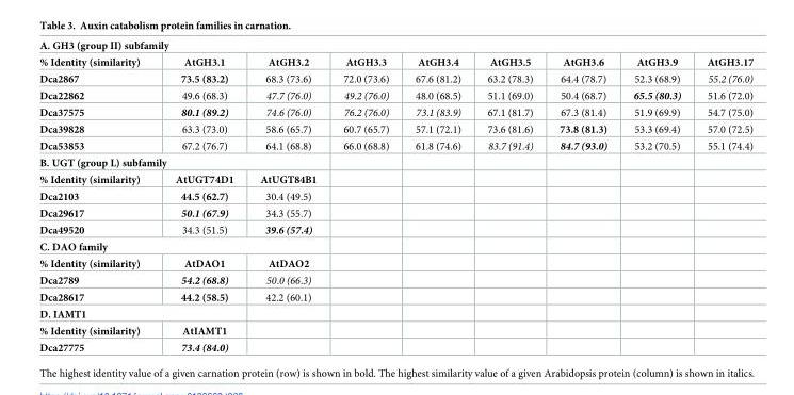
<table><tbody><tr><td colspan="9">A. GH3 (group II) subfamily</td></tr><tr><td>% Identity (similarity)</td><td>AtGH3.1</td><td>AtGH3.2</td><td>AtGH3.3</td><td>AtGH3.4</td><td>AtGH3.5</td><td>AtGH3.6</td><td>AtGH3.9</td><td>AtGH3.17</td></tr><tr><td>Dca2867</td><td>73.5 (83.2)</td><td>68.3 (73.6)</td><td>72.0 (73.6)</td><td>67.6 (81.2)</td><td>63.2 (78.3)</td><td>64.4 (78.7)</td><td>52.3 (68.9)</td><td>55.2 (76.0)</td></tr><tr><td>Dca22862</td><td>49.6 (68.3)</td><td>47.7 (76.0)</td><td>49.2 (76.0)</td><td>48.0 (68.5)</td><td>51.1 (69.0)</td><td>50.4 (68.7)</td><td>65.5 (80.3)</td><td>51.6 (72.0)</td></tr><tr><td>Dca37575</td><td>80.1 (89.2)</td><td>74.6 (76.0)</td><td>76.2 (76.0)</td><td>73.1 (83.9)</td><td>67.1 (81.7)</td><td>67.3 (81.4)</td><td>51.9 (69.9)</td><td>54.7 (75.0)</td></tr><tr><td>Dca39828</td><td>63.3 (73.0)</td><td>58.6 (65.7)</td><td>60.7 (65.7)</td><td>57.1 (72.1)</td><td>73.6 (81.6)</td><td>73.8 (81.3)</td><td>53.3 (69.4)</td><td>57.0 (72.5)</td></tr><tr><td>Dca53853</td><td>67.2 (76.7)</td><td>64.1 (68.8)</td><td>66.0 (68.8)</td><td>61.8 (74.6)</td><td>83.7 (91.4)</td><td>84.7 (93.0)</td><td>53.2 (70.5)</td><td>55.1 (74.4)</td></tr><tr><td colspan="9">B. UGT (group L) subfamily</td></tr><tr><td>% Identity (similarity)</td><td>AtUGT74D1</td><td>AtUGT84B1</td><td></td><td></td><td></td><td></td><td></td><td></td></tr><tr><td>Dca2103</td><td>44.5 (62.7)</td><td>30.4 (49.5)</td><td></td><td></td><td></td><td></td><td></td><td></td></tr><tr><td>Dca29617</td><td>50.1 (67.9)</td><td>34.3 (55.7)</td><td></td><td></td><td></td><td></td><td></td><td></td></tr><tr><td>Dca49520</td><td>34.3 (51.5)</td><td>39.6 (57.4)</td><td></td><td></td><td></td><td></td><td></td><td></td></tr><tr><td colspan="9">C. DAO family</td></tr><tr><td>% Identity (similarity)</td><td>AtDAO1</td><td>AtDAO2</td><td></td><td></td><td></td><td></td><td></td><td></td></tr><tr><td>Dca2789</td><td>54.2 (68.8)</td><td>50.0 (66.3)</td><td></td><td></td><td></td><td></td><td></td><td></td></tr><tr><td>Dca28617</td><td>44.2 (58.5)</td><td>42.2 (60.1)</td><td></td><td></td><td></td><td></td><td></td><td></td></tr><tr><td colspan="9">D. IAMT1</td></tr><tr><td>% Identity (similarity)</td><td>AtIAMT1</td><td></td><td></td><td></td><td></td><td></td><td></td><td></td></tr><tr><td>Dca27775</td><td>73.4 (84.0)</td><td></td><td></td><td></td><td></td><td></td><td></td><td></td></tr></tbody></table>